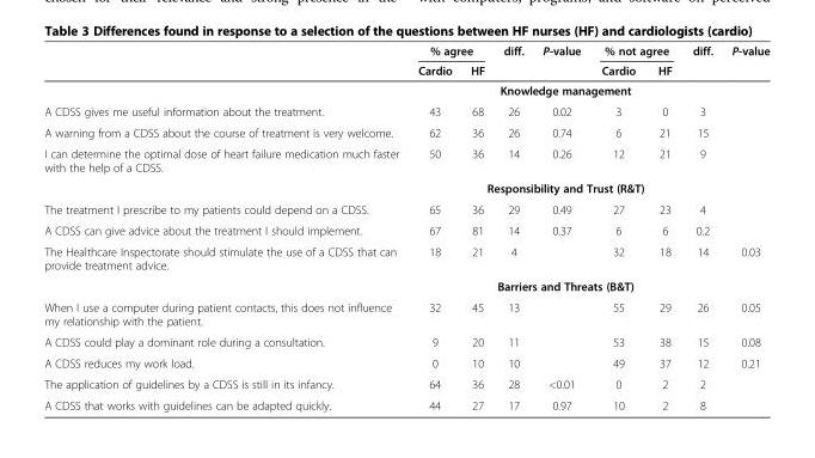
<table><thead><tr><td rowspan="2"></td><td colspan="2">% agree</td><td rowspan="2">diff.</td><td rowspan="2">P-value</td><td colspan="2">% not agree</td><td rowspan="2">diff.</td><td rowspan="2">P-value</td></tr><tr><td>Cardio</td><td>HF</td><td>Cardio</td><td>HF</td></tr></thead><tbody><tr><td></td><td colspan="7">Knowledge management</td><td></td></tr><tr><td>A CDSS gives me useful information about the treatment.</td><td>43</td><td>68</td><td>26</td><td>0.02</td><td>3</td><td>0</td><td>3</td><td></td></tr><tr><td>A warning from a CDSS about the course of treatment is very welcome.</td><td>62</td><td>36</td><td>26</td><td>0.74</td><td>6</td><td>21</td><td>15</td><td></td></tr><tr><td rowspan="2">I can determine the optimal dose of heart failure medication much faster with the help of a CDSS.</td><td>50</td><td>36</td><td>14</td><td>0.26</td><td>12</td><td>21</td><td>9</td><td></td></tr><tr><td colspan="7">Responsibility and Trust (R&amp;T)</td><td></td></tr><tr><td>The treatment I prescribe to my patients could depend on a CDSS.</td><td>65</td><td>36</td><td>29</td><td>0.49</td><td>27</td><td>23</td><td>4</td><td></td></tr><tr><td>A CDSS can give advice about the treatment I should implement.</td><td>67</td><td>81</td><td>14</td><td>0.37</td><td>6</td><td>6</td><td>0.2</td><td></td></tr><tr><td rowspan="2">The Healthcare Inspectorate should stimulate the use of a CDSS that can provide treatment advice.</td><td>18</td><td>21</td><td>4</td><td></td><td>32</td><td>18</td><td>14</td><td>0.03</td></tr><tr><td colspan="7">Barriers and Threats (B&amp;T)</td><td></td></tr><tr><td>When I use a computer during patient contacts, this does not influence my relationship with the patient.</td><td>32</td><td>45</td><td>13</td><td></td><td>55</td><td>29</td><td>26</td><td>0.05</td></tr><tr><td>A CDSS could play a dominant role during a consultation.</td><td>9</td><td>20</td><td>11</td><td></td><td>53</td><td>38</td><td>15</td><td>0.08</td></tr><tr><td>A CDSS reduces my work load.</td><td>0</td><td>10</td><td>10</td><td></td><td>49</td><td>37</td><td>12</td><td>0.21</td></tr><tr><td>The application of guidelines by a CDSS is still in its infancy.</td><td>64</td><td>36</td><td>28</td><td>&lt;0.01</td><td>0</td><td>2</td><td>2</td><td></td></tr><tr><td>A CDSS that works with guidelines can be adapted quickly.</td><td>44</td><td>27</td><td>17</td><td>0.97</td><td>10</td><td>2</td><td>8</td><td></td></tr></tbody></table>